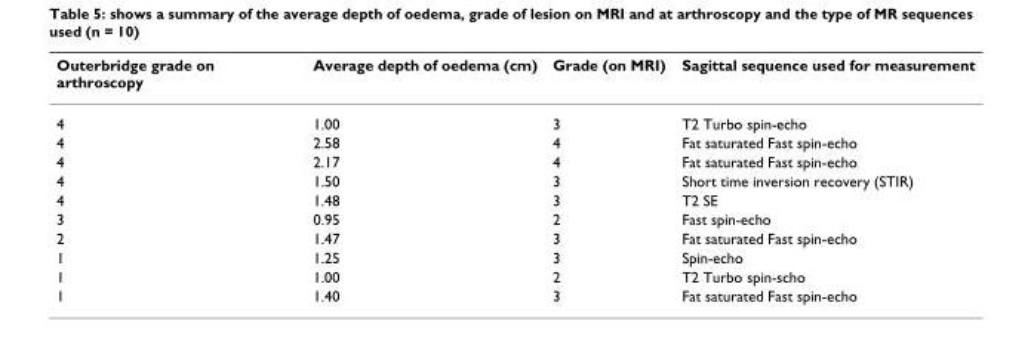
<table><thead><tr><td>Outerbridge grade on arthroscopy</td><td>Average depth of oedema (cm)</td><td>Grade (on MRI)</td><td>Sagittal sequence used for measurement</td></tr></thead><tbody><tr><td>4</td><td>1.00</td><td>3</td><td>T2 Turbo spin-echo</td></tr><tr><td>4</td><td>2.58</td><td>4</td><td>Fat saturated Fast spin-echo</td></tr><tr><td>4</td><td>2.17</td><td>4</td><td>Fat saturated Fast spin-echo</td></tr><tr><td>4</td><td>1.50</td><td>3</td><td>Short time inversion recovery (STIR)</td></tr><tr><td>4</td><td>1.48</td><td>3</td><td>T2 SE</td></tr><tr><td>3</td><td>0.95</td><td>2</td><td>Fast spin-echo</td></tr><tr><td>2</td><td>1.47</td><td>3</td><td>Fat saturated Fast spin-echo</td></tr><tr><td>1</td><td>1.25</td><td>3</td><td>Spin-echo</td></tr><tr><td>1</td><td>1.00</td><td>2</td><td>T2 Turbo spin-scho</td></tr><tr><td>1</td><td>1.40</td><td>3</td><td>Fat saturated Fast spin-echo</td></tr></tbody></table>